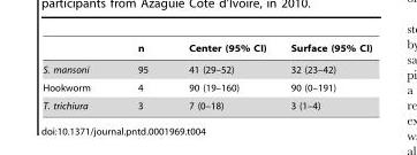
<table><thead><tr><td></td><td>n</td><td>Center (95% CI)</td><td>Surface (95% CI)</td></tr></thead><tbody><tr><td>S. mansoni</td><td>95</td><td>41 (29–52)</td><td>32 (23–42)</td></tr><tr><td>Hookworm</td><td>4</td><td>90 (19–160)</td><td>90 (0–191)</td></tr><tr><td>T. trichiura</td><td>3</td><td>7 (0–18)</td><td>3 (1–4)</td></tr></tbody></table>